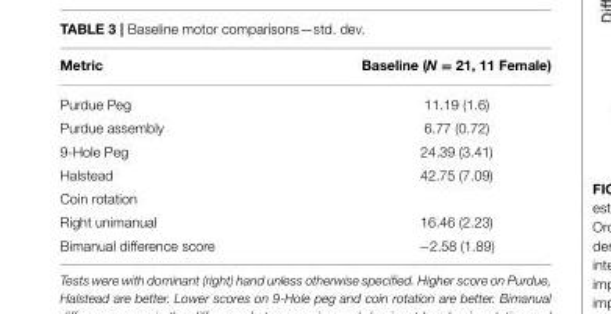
<table><thead><tr><td>Metric</td><td>Baseline (N = 21, 11 Female)</td></tr></thead><tbody><tr><td>Purdue Peg</td><td>11.19 (1.6)</td></tr><tr><td>Purdue assembly</td><td>6.77 (0.72)</td></tr><tr><td>9-Hole Peg</td><td>24.39 (3.41)</td></tr><tr><td>Halstead</td><td>42.75 (7.09)</td></tr><tr><td colspan="2">Coin rotation</td></tr><tr><td>Right unimanual</td><td>16.46 (2.23)</td></tr><tr><td>Bimanual difference score</td><td>−2.58 (1.89)</td></tr></tbody></table>